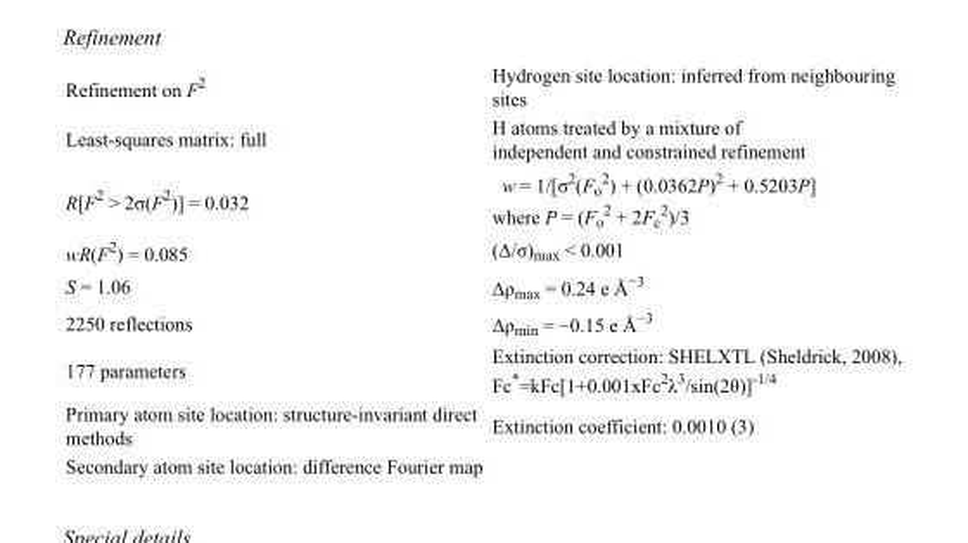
<table><tbody><tr><td>Refinement on F<sup>2</sup></td><td>Hydrogen site location: inferred from neighbouring sites</td></tr><tr><td>Least-squares matrix: full</td><td>H atoms treated by a mixture of independent and constrained refinement</td></tr><tr><td>R[F<sup>2</sup> &gt; 2σ(F<sup>2</sup>)] = 0.032</td><td>w = 1/[σ<sup>2</sup>(F<sub>o</sub> <sup>2</sup>) + (0.0362P)<sup>2</sup> + 0.5203P] where P = (F<sub>o</sub> <sup>2</sup> + 2F<sub>c</sub> <sup>2</sup>)/3</td></tr><tr><td>wR(F<sup>2</sup>) = 0.085</td><td>(Δ/σ)<sub>max</sub> &lt; 0.001</td></tr><tr><td>S = 1.06</td><td>Δρ<sub>max</sub> = 0.24 e Å<sup>−3</sup></td></tr><tr><td>2250 reflections</td><td>Δρ<sub>min</sub> = −0.15 e Å<sup>−3</sup></td></tr><tr><td>177 parameters</td><td>Extinction correction: SHELXTL (Sheldrick, 2008), Fc*=kFc[1+0.001xFc<sup>2</sup>λ<sup>3</sup>/sin(2θ)]<sup>-1/4</sup></td></tr><tr><td>Primary atom site location: structure-invariant direct methods</td><td>Extinction coefficient: 0.0010 (3)</td></tr><tr><td>Secondary atom site location: difference Fourier map</td><td></td></tr></tbody></table>